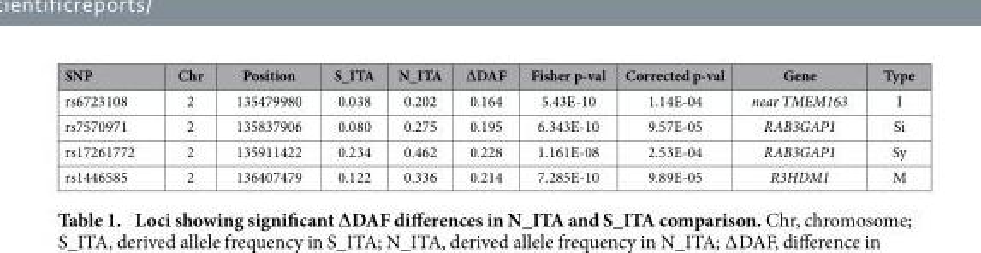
<table><thead><tr><td>SNP</td><td>Chr</td><td>Position</td><td>S_ITA</td><td>N_ITA</td><td>∆DAF</td><td>Fisher p-val</td><td>Corrected p-val</td><td>Gene</td><td>Type</td></tr></thead><tbody><tr><td>rs6723108</td><td>2</td><td>135479980</td><td>0.038</td><td>0.202</td><td>0.164</td><td>5.43E-10</td><td>1.14E-04</td><td>near TMEM163</td><td>I</td></tr><tr><td>rs7570971</td><td>2</td><td>135837906</td><td>0.080</td><td>0.275</td><td>0.195</td><td>6.343E-10</td><td>9.57E-05</td><td>RAB3GAP1</td><td>Si</td></tr><tr><td>rs17261772</td><td>2</td><td>135911422</td><td>0.234</td><td>0.462</td><td>0.228</td><td>1.161E-08</td><td>2.53E-04</td><td>RAB3GAP1</td><td>Sy</td></tr><tr><td>rs1446585</td><td>2</td><td>136407479</td><td>0.122</td><td>0.336</td><td>0.214</td><td>7.285E-10</td><td>9.89E-05</td><td>R3HDM1</td><td>M</td></tr></tbody></table>